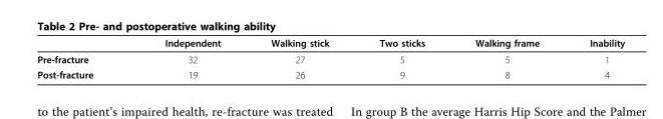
<table><thead><tr><td></td><td>Independent</td><td>Walking stick</td><td>Two sticks</td><td>Walking frame</td><td>Inability</td></tr></thead><tbody><tr><td>Pre-fracture</td><td>32</td><td>27</td><td>5</td><td>5</td><td>1</td></tr><tr><td>Post-fracture</td><td>19</td><td>26</td><td>9</td><td>8</td><td>4</td></tr></tbody></table>